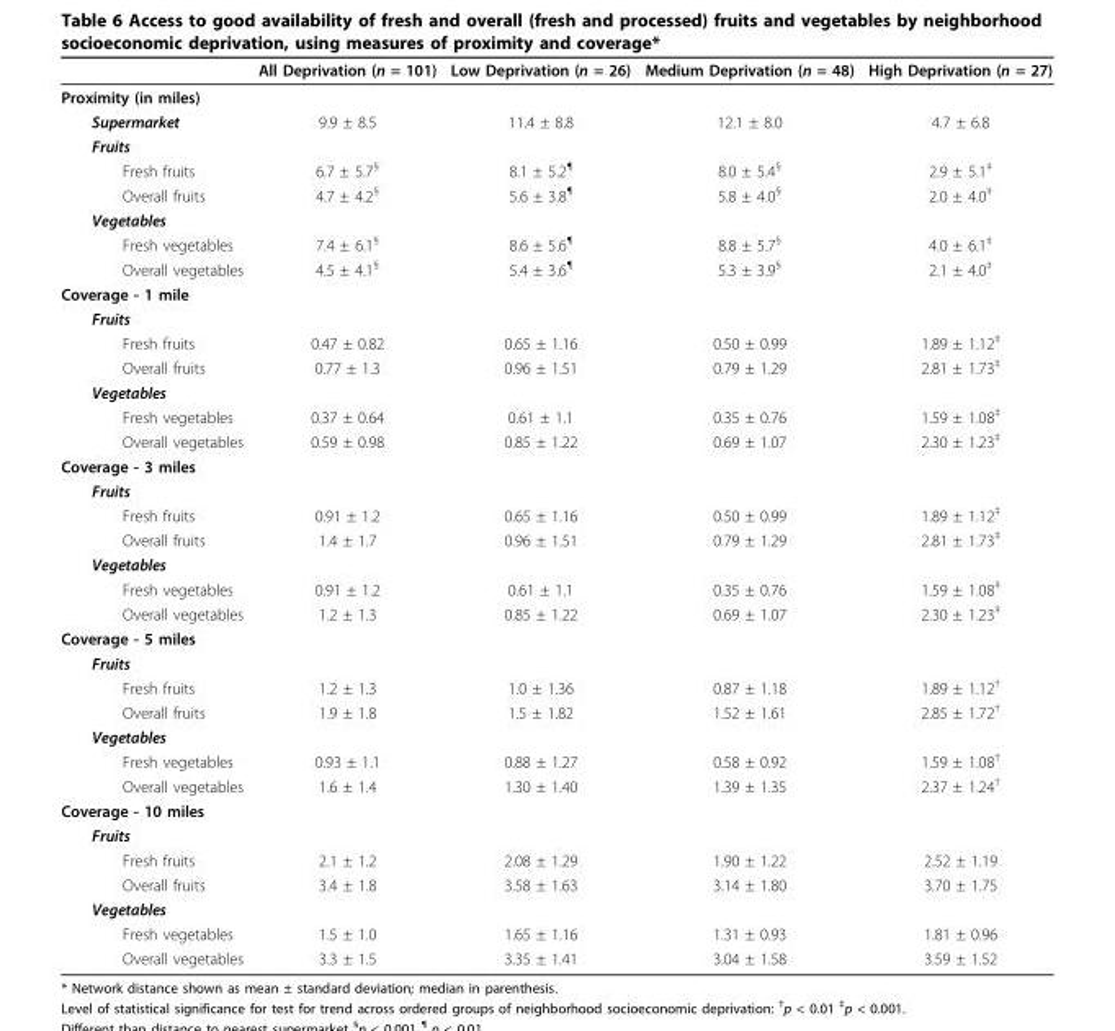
<table><thead><tr><td></td><td>All Deprivation (n = 101)</td><td>Low Deprivation (n = 26)</td><td>Medium Deprivation (n = 48)</td><td>High Deprivation (n = 27)</td></tr></thead><tbody><tr><td colspan="5">Proximity (in miles)</td></tr><tr><td>Supermarket</td><td>9.9 ± 8.5</td><td>11.4 ± 8.8</td><td>12.1 ± 8.0</td><td>4.7 ± 6.8</td></tr><tr><td colspan="5">Fruits</td></tr><tr><td>Fresh fruits</td><td>6.7 ± 5.7<sup>§</sup></td><td>8.1 ± 5.2<sup>¶</sup></td><td>8.0 ± 5.4<sup>§</sup></td><td>2.9 ± 5.1<sup>‡</sup></td></tr><tr><td>Overall fruits</td><td>4.7 ± 4.2<sup>§</sup></td><td>5.6 ± 3.8<sup>¶</sup></td><td>5.8 ± 4.0<sup>§</sup></td><td>2.0 ± 4.0<sup>‡</sup></td></tr><tr><td colspan="5">Vegetables</td></tr><tr><td>Fresh vegetables</td><td>7.4 ± 6.1<sup>§</sup></td><td>8.6 ± 5.6<sup>¶</sup></td><td>8.8 ± 5.7<sup>§</sup></td><td>4.0 ± 6.1<sup>‡</sup></td></tr><tr><td>Overall vegetables</td><td>4.5 ± 4.1<sup>§</sup></td><td>5.4 ± 3.6<sup>¶</sup></td><td>5.3 ± 3.9<sup>§</sup></td><td>2.1 ± 4.0<sup>‡</sup></td></tr><tr><td colspan="5">Coverage - 1 mile</td></tr><tr><td colspan="5">Fruits</td></tr><tr><td>Fresh fruits</td><td>0.47 ± 0.82</td><td>0.65 ± 1.16</td><td>0.50 ± 0.99</td><td>1.89 ± 1.12<sup>‡</sup></td></tr><tr><td>Overall fruits</td><td>0.77 ± 1.3</td><td>0.96 ± 1.51</td><td>0.79 ± 1.29</td><td>2.81 ± 1.73<sup>‡</sup></td></tr><tr><td colspan="5">Vegetables</td></tr><tr><td>Fresh vegetables</td><td>0.37 ± 0.64</td><td>0.61 ± 1.1</td><td>0.35 ± 0.76</td><td>1.59 ± 1.08<sup>‡</sup></td></tr><tr><td>Overall vegetables</td><td>0.59 ± 0.98</td><td>0.85 ± 1.22</td><td>0.69 ± 1.07</td><td>2.30 ± 1.23<sup>‡</sup></td></tr><tr><td colspan="5">Coverage - 3 miles</td></tr><tr><td colspan="5">Fruits</td></tr><tr><td>Fresh fruits</td><td>0.91 ± 1.2</td><td>0.65 ± 1.16</td><td>0.50 ± 0.99</td><td>1.89 ± 1.12<sup>‡</sup></td></tr><tr><td>Overall fruits</td><td>1.4 ± 1.7</td><td>0.96 ± 1.51</td><td>0.79 ± 1.29</td><td>2.81 ± 1.73<sup>‡</sup></td></tr><tr><td colspan="5">Vegetables</td></tr><tr><td>Fresh vegetables</td><td>0.91 ± 1.2</td><td>0.61 ± 1.1</td><td>0.35 ± 0.76</td><td>1.59 ± 1.08<sup>‡</sup></td></tr><tr><td>Overall vegetables</td><td>1.2 ± 1.3</td><td>0.85 ± 1.22</td><td>0.69 ± 1.07</td><td>2.30 ± 1.23<sup>‡</sup></td></tr><tr><td colspan="5">Coverage - 5 miles</td></tr><tr><td colspan="5">Fruits</td></tr><tr><td>Fresh fruits</td><td>1.2 ± 1.3</td><td>1.0 ± 1.36</td><td>0.87 ± 1.18</td><td>1.89 ± 1.12<sup>†</sup></td></tr><tr><td>Overall fruits</td><td>1.9 ± 1.8</td><td>1.5 ± 1.82</td><td>1.52 ± 1.61</td><td>2.85 ± 1.72<sup>†</sup></td></tr><tr><td colspan="5">Vegetables</td></tr><tr><td>Fresh vegetables</td><td>0.93 ± 1.1</td><td>0.88 ± 1.27</td><td>0.58 ± 0.92</td><td>1.59 ± 1.08<sup>†</sup></td></tr><tr><td>Overall vegetables</td><td>1.6 ± 1.4</td><td>1.30 ± 1.40</td><td>1.39 ± 1.35</td><td>2.37 ± 1.24<sup>†</sup></td></tr><tr><td colspan="5">Coverage - 10 miles</td></tr><tr><td colspan="5">Fruits</td></tr><tr><td>Fresh fruits</td><td>2.1 ± 1.2</td><td>2.08 ± 1.29</td><td>1.90 ± 1.22</td><td>2.52 ± 1.19</td></tr><tr><td>Overall fruits</td><td>3.4 ± 1.8</td><td>3.58 ± 1.63</td><td>3.14 ± 1.80</td><td>3.70 ± 1.75</td></tr><tr><td colspan="5">Vegetables</td></tr><tr><td>Fresh vegetables</td><td>1.5 ± 1.0</td><td>1.65 ± 1.16</td><td>1.31 ± 0.93</td><td>1.81 ± 0.96</td></tr><tr><td>Overall vegetables</td><td>3.3 ± 1.5</td><td>3.35 ± 1.41</td><td>3.04 ± 1.58</td><td>3.59 ± 1.52</td></tr></tbody></table>